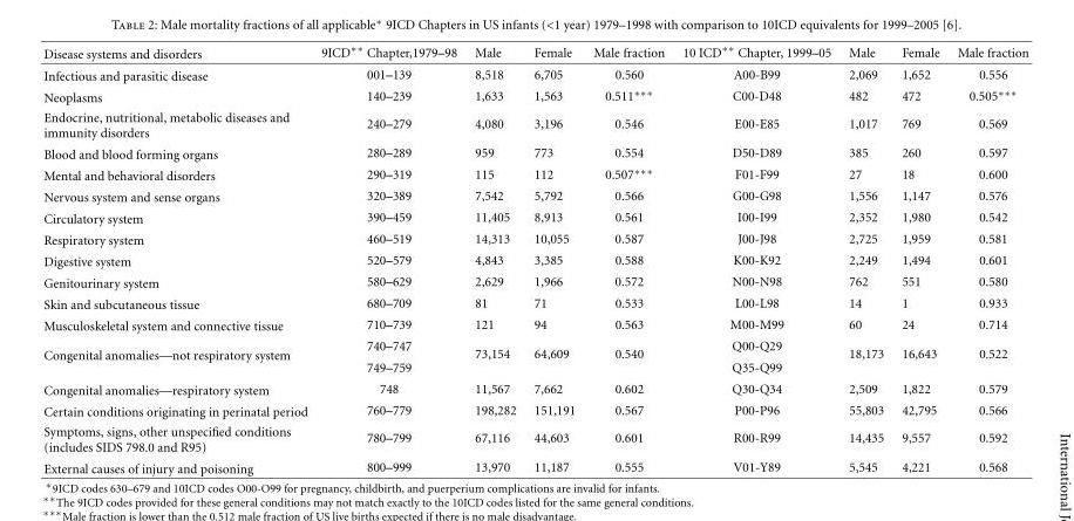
<table><thead><tr><td>Disease systems and disorders</td><td>9ICD∗∗ Chapter,1979–98</td><td>Male</td><td>Female</td><td>Male fraction</td><td>10 ICD∗∗ Chapter, 1999–05</td><td>Male</td><td>Female</td><td>Male fraction</td></tr></thead><tbody><tr><td>Infectious and parasitic disease</td><td>001–139</td><td>8,518</td><td>6,705</td><td>0.560</td><td>A00-B99</td><td>2,069</td><td>1,652</td><td>0.556</td></tr><tr><td>Neoplasms</td><td>140–239</td><td>1,633</td><td>1,563</td><td>0.511∗∗∗</td><td>C00-D48</td><td>482</td><td>472</td><td>0.505∗∗∗</td></tr><tr><td>Endocrine, nutritional, metabolic diseases and immunity disorders</td><td>240–279</td><td>4,080</td><td>3,196</td><td>0.546</td><td>E00-E85</td><td>1,017</td><td>769</td><td>0.569</td></tr><tr><td>Blood and blood forming organs</td><td>280–289</td><td>959</td><td>773</td><td>0.554</td><td>D50-D89</td><td>385</td><td>260</td><td>0.597</td></tr><tr><td>Mental and behavioral disorders</td><td>290–319</td><td>115</td><td>112</td><td>0.507∗∗∗</td><td>F01-F99</td><td>27</td><td>18</td><td>0.600</td></tr><tr><td>Nervous system and sense organs</td><td>320–389</td><td>7,542</td><td>5,792</td><td>0.566</td><td>G00-G98</td><td>1,556</td><td>1,147</td><td>0.576</td></tr><tr><td>Circulatory system</td><td>390–459</td><td>11,405</td><td>8,913</td><td>0.561</td><td>I00-I99</td><td>2,352</td><td>1,980</td><td>0.542</td></tr><tr><td>Respiratory system</td><td>460–519</td><td>14,313</td><td>10,055</td><td>0.587</td><td>J00-J98</td><td>2,725</td><td>1,959</td><td>0.581</td></tr><tr><td>Digestive system</td><td>520–579</td><td>4,843</td><td>3,385</td><td>0.588</td><td>K00-K92</td><td>2,249</td><td>1,494</td><td>0.601</td></tr><tr><td>Genitourinary system</td><td>580–629</td><td>2,629</td><td>1,966</td><td>0.572</td><td>N00-N98</td><td>762</td><td>551</td><td>0.580</td></tr><tr><td>Skin and subcutaneous tissue</td><td>680–709</td><td>81</td><td>71</td><td>0.533</td><td>L00-L98</td><td>14</td><td>1</td><td>0.933</td></tr><tr><td>Musculoskeletal system and connective tissue</td><td>710–739</td><td>121</td><td>94</td><td>0.563</td><td>M00-M99</td><td>60</td><td>24</td><td>0.714</td></tr><tr><td rowspan="2">Congenital anomalies—not respiratory system</td><td>740–747</td><td rowspan="2">73,154</td><td rowspan="2">64,609</td><td rowspan="2">0.540</td><td>Q00-Q29</td><td rowspan="2">18,173</td><td rowspan="2">16,643</td><td rowspan="2">0.522</td></tr><tr><td>749–759</td><td>Q35-Q99</td></tr><tr><td>Congenital anomalies—respiratory system</td><td>748</td><td>11,567</td><td>7,662</td><td>0.602</td><td>Q30-Q34</td><td>2,509</td><td>1,822</td><td>0.579</td></tr><tr><td>Certain conditions originating in perinatal period</td><td>760–779</td><td>198,282</td><td>151,191</td><td>0.567</td><td>P00-P96</td><td>55,803</td><td>42,795</td><td>0.566</td></tr><tr><td>Symptoms, signs, other unspecified conditions (includes SIDS 798.0 and R95)</td><td>780–799</td><td>67,116</td><td>44,603</td><td>0.601</td><td>R00-R99</td><td>14,435</td><td>9,557</td><td>0.592</td></tr><tr><td>External causes of injury and poisoning</td><td>800–999</td><td>13,970</td><td>11,187</td><td>0.555</td><td>V01-Y89</td><td>5,545</td><td>4,221</td><td>0.568</td></tr></tbody></table>